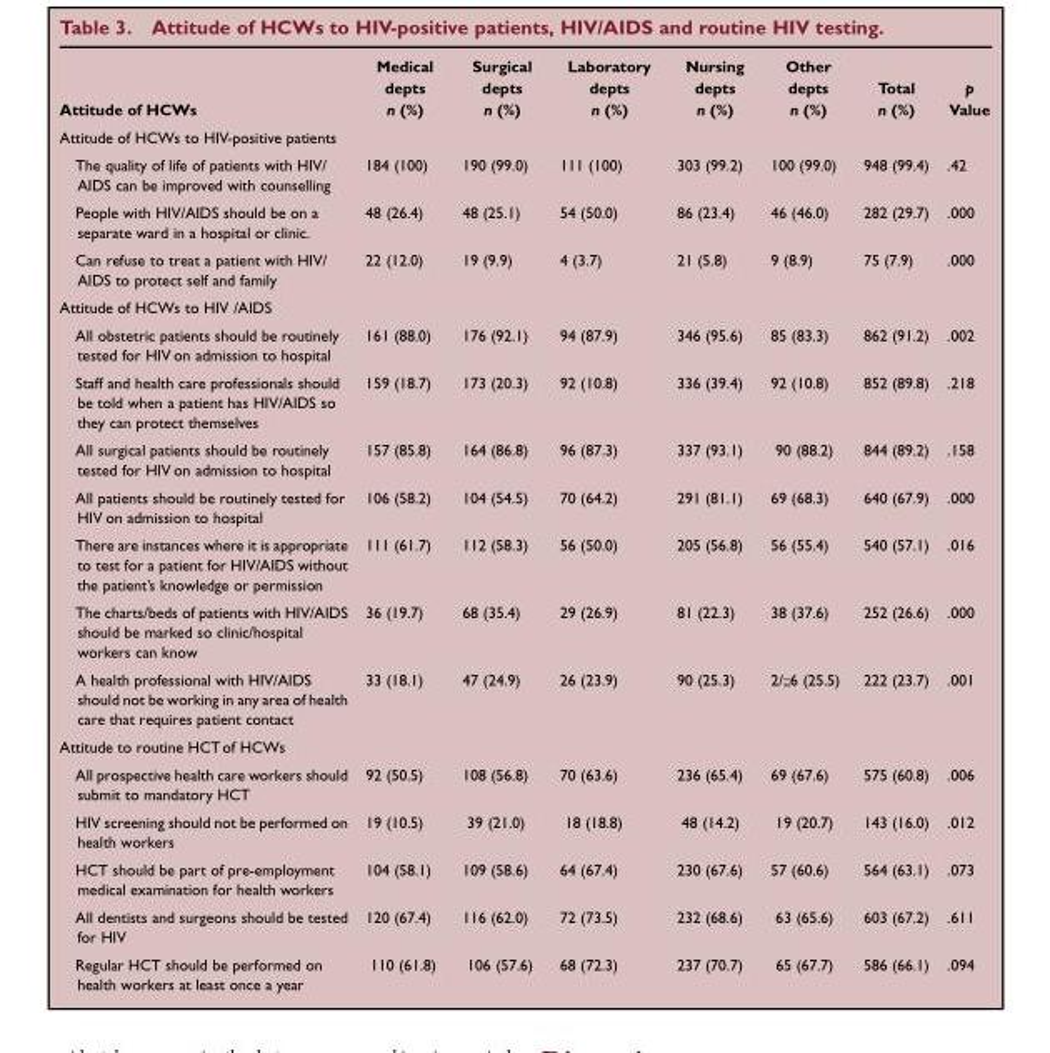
<table><thead><tr><td>Attitude of HCWs</td><td>Medical depts n (%)</td><td>Surgical depts n (%)</td><td>Laboratory depts n (%)</td><td>Nursing depts n (%)</td><td>Other depts n (%)</td><td>Total n (%)</td><td>p Value</td></tr></thead><tbody><tr><td colspan="8">Attitude of HCWs to HIV-positive patients</td></tr><tr><td>The quality of life of patients with HIV/ AIDS can be improved with counselling</td><td>184 (100)</td><td>190 (99.0)</td><td>111 (100)</td><td>303 (99.2)</td><td>100 (99.0)</td><td>948 (99.4)</td><td>.42</td></tr><tr><td>People with HIV/AIDS should be on a separate ward in a hospital or clinic.</td><td>48 (26.4)</td><td>48 (25.1)</td><td>54 (50.0)</td><td>86 (23.4)</td><td>46 (46.0)</td><td>282 (29.7)</td><td>.000</td></tr><tr><td>Can refuse to treat a patient with HIV/ AIDS to protect self and family</td><td>22 (12.0)</td><td>19 (9.9)</td><td>4 (3.7)</td><td>21 (5.8)</td><td>9 (8.9)</td><td>75 (7.9)</td><td>.000</td></tr><tr><td colspan="8">Attitude of HCWs to HIV /AIDS</td></tr><tr><td>All obstetric patients should be routinely tested for HIV on admission to hospital</td><td>161 (88.0)</td><td>176 (92.1)</td><td>94 (87.9)</td><td>346 (95.6)</td><td>85 (83.3)</td><td>862 (91.2)</td><td>.002</td></tr><tr><td>Staff and health care professionals should be told when a patient has HIV/AIDS so they can protect themselves</td><td>159 (18.7)</td><td>173 (20.3)</td><td>92 (10.8)</td><td>336 (39.4)</td><td>92 (10.8)</td><td>852 (89.8)</td><td>.218</td></tr><tr><td>All surgical patients should be routinely tested for HIV on admission to hospital</td><td>157 (85.8)</td><td>164 (86.8)</td><td>96 (87.3)</td><td>337 (93.1)</td><td>90 (88.2)</td><td>844 (89.2)</td><td>.158</td></tr><tr><td>All patients should be routinely tested for HIV on admission to hospital</td><td>106 (58.2)</td><td>104 (54.5)</td><td>70 (64.2)</td><td>291 (81.1)</td><td>69 (68.3)</td><td>640 (67.9)</td><td>.000</td></tr><tr><td>There are instances where it is appropriate to test for a patient for HIV/AIDS without the patient’s knowledge or permission</td><td>111 (61.7)</td><td>112 (58.3)</td><td>56 (50.0)</td><td>205 (56.8)</td><td>56 (55.4)</td><td>540 (57.1)</td><td>.016</td></tr><tr><td>The charts/beds of patients with HIV/AIDS should be marked so clinic/hospital workers can know</td><td>36 (19.7)</td><td>68 (35.4)</td><td>29 (26.9)</td><td>81 (22.3)</td><td>38 (37.6)</td><td>252 (26.6)</td><td>.000</td></tr><tr><td>A health professional with HIV/AIDS should not be working in any area of health care that requires patient contact</td><td>33 (18.1)</td><td>47 (24.9)</td><td>26 (23.9)</td><td>90 (25.3)</td><td>2/;;6 (25.5)</td><td>222 (23.7)</td><td>.001</td></tr><tr><td colspan="8">Attitude to routine HCTof HCWs</td></tr><tr><td>All prospective health care workers should submit to mandatory HCT</td><td>92 (50.5)</td><td>108 (56.8)</td><td>70 (63.6)</td><td>236 (65.4)</td><td>69 (67.6)</td><td>575 (60.8)</td><td>.006</td></tr><tr><td>HIV screening should not be performed on health workers</td><td>19 (10.5)</td><td>39 (21.0)</td><td>18 (18.8)</td><td>48 (14.2)</td><td>19 (20.7)</td><td>143 (16.0)</td><td>.012</td></tr><tr><td>HCT should be part of pre-employment medical examination for health workers</td><td>104 (58.1)</td><td>109 (58.6)</td><td>64 (67.4)</td><td>230 (67.6)</td><td>57 (60.6)</td><td>564 (63.1)</td><td>.073</td></tr><tr><td>All dentists and surgeons should be tested for HIV</td><td>120 (67.4)</td><td>116 (62.0)</td><td>72 (73.5)</td><td>232 (68.6)</td><td>63 (65.6)</td><td>603 (67.2)</td><td>.611</td></tr><tr><td>Regular HCT should be performed on health workers at least once a year</td><td>110 (61.8)</td><td>106 (57.6)</td><td>68 (72.3)</td><td>237 (70.7)</td><td>65 (67.7)</td><td>586 (66.1)</td><td>.094</td></tr></tbody></table>